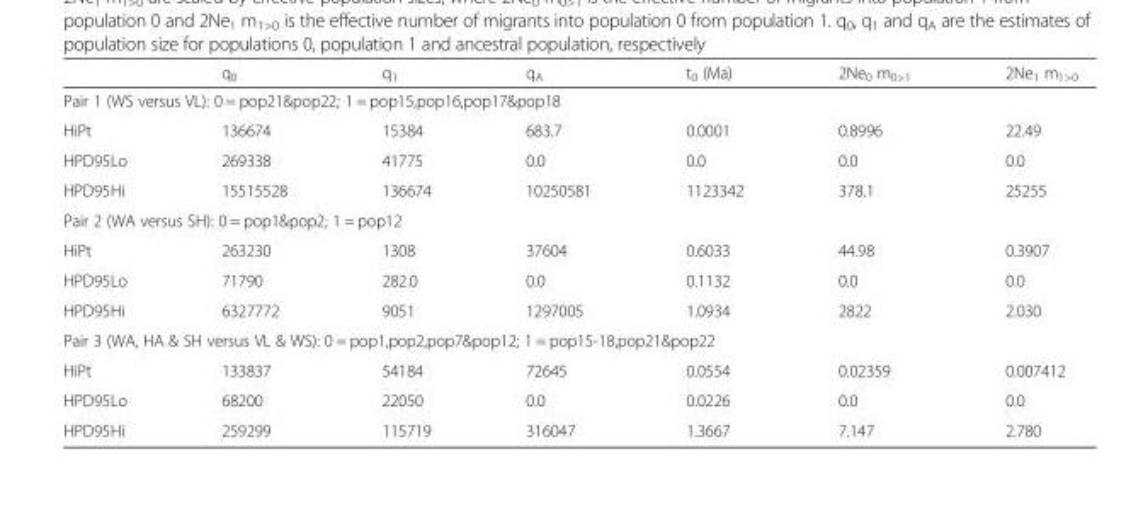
<table><thead><tr><td></td><td>q<sub>0</sub></td><td>q<sub>1</sub></td><td>q<sub>A</sub></td><td>t<sub>0</sub> (Ma)</td><td>2Ne<sub>0</sub> m<sub>0&gt;1</sub></td><td>2Ne<sub>1</sub> m<sub>1&gt;0</sub></td></tr></thead><tbody><tr><td colspan="7">Pair 1 (WS versus VL): 0 = pop21&amp;pop22; 1 = pop15,pop16,pop17&amp;pop18</td></tr><tr><td>HiPt</td><td>136674</td><td>15384</td><td>683.7</td><td>0.0001</td><td>0.8996</td><td>22.49</td></tr><tr><td>HPD95Lo</td><td>269338</td><td>41775</td><td>0.0</td><td>0.0</td><td>0.0</td><td>0.0</td></tr><tr><td>HPD95Hi</td><td>15515528</td><td>136674</td><td>10250581</td><td>1123342</td><td>378.1</td><td>25255</td></tr><tr><td colspan="7">Pair 2 (WA versus SH): 0 = pop1&amp;pop2; 1 = pop12</td></tr><tr><td>HiPt</td><td>263230</td><td>1308</td><td>37604</td><td>0.6033</td><td>44.98</td><td>0.3907</td></tr><tr><td>HPD95Lo</td><td>71790</td><td>282.0</td><td>0.0</td><td>0.1132</td><td>0.0</td><td>0.0</td></tr><tr><td>HPD95Hi</td><td>6327772</td><td>9051</td><td>1297005</td><td>1.0934</td><td>2822</td><td>2.030</td></tr><tr><td colspan="7">Pair 3 (WA, HA &amp; SH versus VL &amp; WS): 0 = pop1,pop2,pop7&amp;pop12; 1 = pop15-18,pop21&amp;pop22</td></tr><tr><td>HiPt</td><td>133837</td><td>54184</td><td>72645</td><td>0.0554</td><td>0.02359</td><td>0.007412</td></tr><tr><td>HPD95Lo</td><td>68200</td><td>22050</td><td>0.0</td><td>0.0226</td><td>0.0</td><td>0.0</td></tr><tr><td>HPD95Hi</td><td>259299</td><td>115719</td><td>316047</td><td>1.3667</td><td>7.147</td><td>2.780</td></tr></tbody></table>